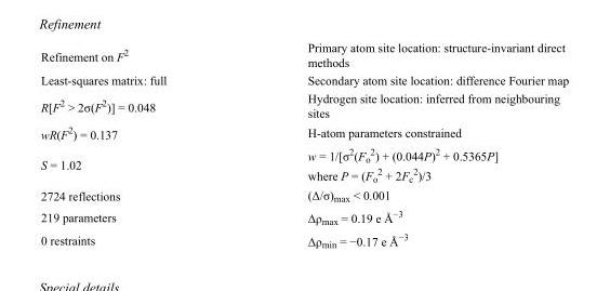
<table><tbody><tr><td>Refinement on F<sup>2</sup></td><td>Primary atom site location: structure-invariant direct methods</td></tr><tr><td>Least-squares matrix: full</td><td>Secondary atom site location: difference Fourier map</td></tr><tr><td>R[F<sup>2</sup> &gt; 2σ(F<sup>2</sup>)] = 0.048</td><td>Hydrogen site location: inferred from neighbouring sites</td></tr><tr><td>wR(F<sup>2</sup>) = 0.137</td><td>H-atom parameters constrained</td></tr><tr><td>S = 1.02</td><td>w = 1/[σ<sup>2</sup>(F<sub>o</sub> <sup>2</sup>) + (0.044P)<sup>2</sup> + 0.5365P] where P = (F<sub>o</sub> <sup>2</sup> + 2F<sub>c</sub> <sup>2</sup>)/3</td></tr><tr><td>2724 reflections</td><td>(Δ/σ)<sub>max</sub> &lt; 0.001</td></tr><tr><td>219 parameters</td><td>Δρ<sub>max</sub> = 0.19 e Å<sup>−3</sup></td></tr><tr><td>0 restraints</td><td>Δρ<sub>min</sub> = −0.17 e Å<sup>−3</sup></td></tr></tbody></table>